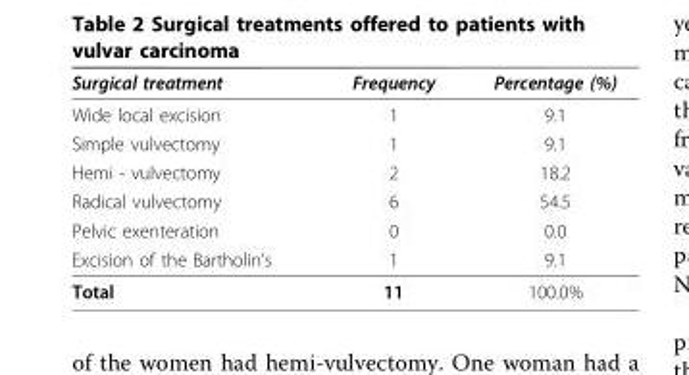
<table><thead><tr><td>Surgical treatment</td><td>Frequency</td><td>Percentage (%)</td></tr></thead><tbody><tr><td>Wide local excision</td><td>1</td><td>9.1</td></tr><tr><td>Simple vulvectomy</td><td>1</td><td>9.1</td></tr><tr><td>Hemi - vulvectomy</td><td>2</td><td>18.2</td></tr><tr><td>Radical vulvectomy</td><td>6</td><td>54.5</td></tr><tr><td>Pelvic exenteration</td><td>0</td><td>0.0</td></tr><tr><td>Excision of the Bartholin’s</td><td>1</td><td>9.1</td></tr><tr><td>Total</td><td>11</td><td>100.0%</td></tr></tbody></table>